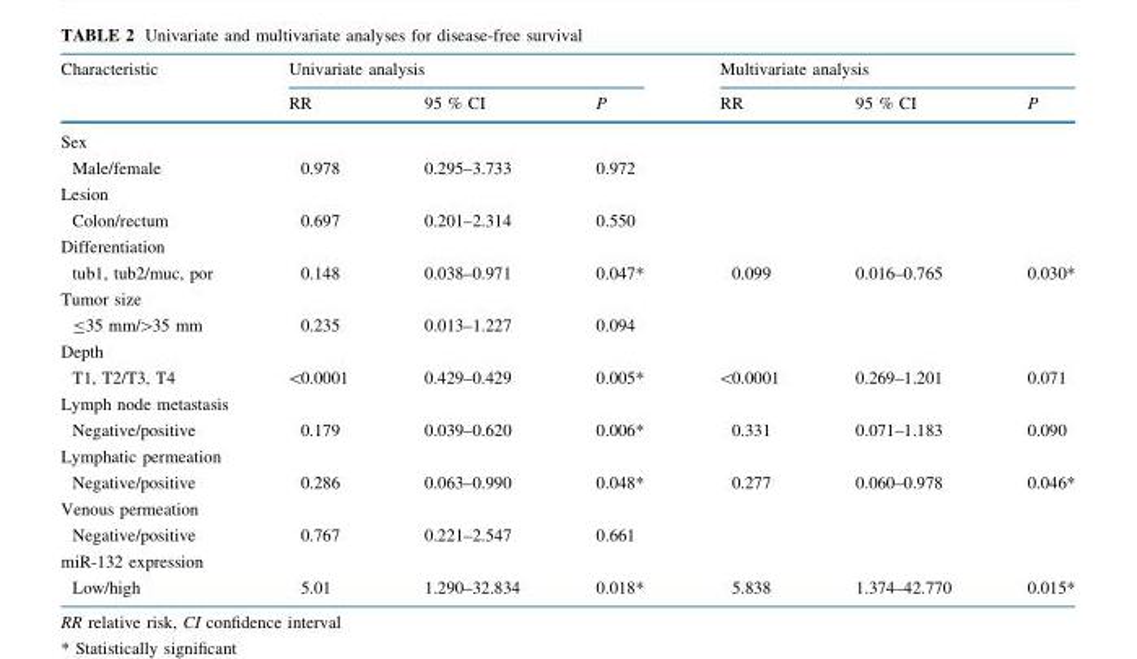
<table><thead><tr><td rowspan="2">Characteristic</td><td colspan="3">Univariate analysis</td><td colspan="3">Multivariate analysis</td></tr><tr><td>RR</td><td>95 % CI</td><td>P</td><td>RR</td><td>95 % CI</td><td>P</td></tr></thead><tbody><tr><td colspan="7">Sex</td></tr><tr><td>Male/female</td><td>0.978</td><td>0.295–3.733</td><td>0.972</td><td></td><td></td><td></td></tr><tr><td colspan="7">Lesion</td></tr><tr><td>Colon/rectum</td><td>0.697</td><td>0.201–2.314</td><td>0.550</td><td></td><td></td><td></td></tr><tr><td colspan="7">Differentiation</td></tr><tr><td>tub1, tub2/muc, por</td><td>0.148</td><td>0.038–0.971</td><td>0.047*</td><td>0.099</td><td>0.016–0.765</td><td>0.030*</td></tr><tr><td colspan="7">Tumor size</td></tr><tr><td>≤35 mm/&gt;35 mm</td><td>0.235</td><td>0.013–1.227</td><td>0.094</td><td></td><td></td><td></td></tr><tr><td colspan="7">Depth</td></tr><tr><td>T1, T2/T3, T4</td><td>&lt;0.0001</td><td>0.429–0.429</td><td>0.005*</td><td>&lt;0.0001</td><td>0.269–1.201</td><td>0.071</td></tr><tr><td colspan="7">Lymph node metastasis</td></tr><tr><td>Negative/positive</td><td>0.179</td><td>0.039–0.620</td><td>0.006*</td><td>0.331</td><td>0.071–1.183</td><td>0.090</td></tr><tr><td colspan="7">Lymphatic permeation</td></tr><tr><td>Negative/positive</td><td>0.286</td><td>0.063–0.990</td><td>0.048*</td><td>0.277</td><td>0.060–0.978</td><td>0.046*</td></tr><tr><td colspan="7">Venous permeation</td></tr><tr><td>Negative/positive</td><td>0.767</td><td>0.221–2.547</td><td>0.661</td><td></td><td></td><td></td></tr><tr><td colspan="7">miR-132 expression</td></tr><tr><td>Low/high</td><td>5.01</td><td>1.290–32.834</td><td>0.018*</td><td>5.838</td><td>1.374–42.770</td><td>0.015*</td></tr></tbody></table>